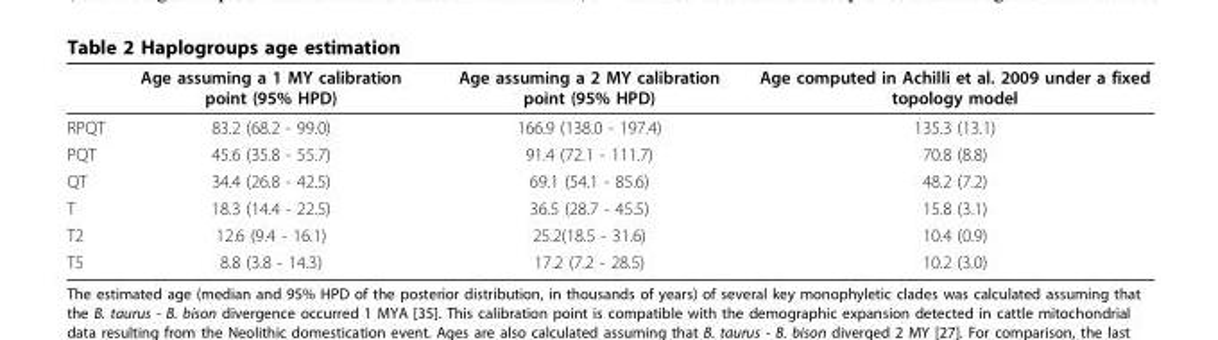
<table><thead><tr><td></td><td>Age assuming a 1 MY calibration point (95% HPD)</td><td>Age assuming a 2 MY calibration point (95% HPD)</td><td>Age computed in Achilli et al. 2009 under a fixed topology model</td></tr></thead><tbody><tr><td>RPQT</td><td>83.2 (68.2 - 99.0)</td><td>166.9 (138.0 - 197.4)</td><td>135.3 (13.1)</td></tr><tr><td>PQT</td><td>45.6 (35.8 - 55.7)</td><td>91.4 (72.1 - 111.7)</td><td>70.8 (8.8)</td></tr><tr><td>QT</td><td>34.4 (26.8 - 42.5)</td><td>69.1 (54.1 - 85.6)</td><td>48.2 (7.2)</td></tr><tr><td>T</td><td>18.3 (14.4 - 22.5)</td><td>36.5 (28.7 - 45.5)</td><td>15.8 (3.1)</td></tr><tr><td>T2</td><td>12.6 (9.4 - 16.1)</td><td>25.2(18.5 - 31.6)</td><td>10.4 (0.9)</td></tr><tr><td>T5</td><td>8.8 (3.8 - 14.3)</td><td>17.2 (7.2 - 28.5)</td><td>10.2 (3.0)</td></tr></tbody></table>